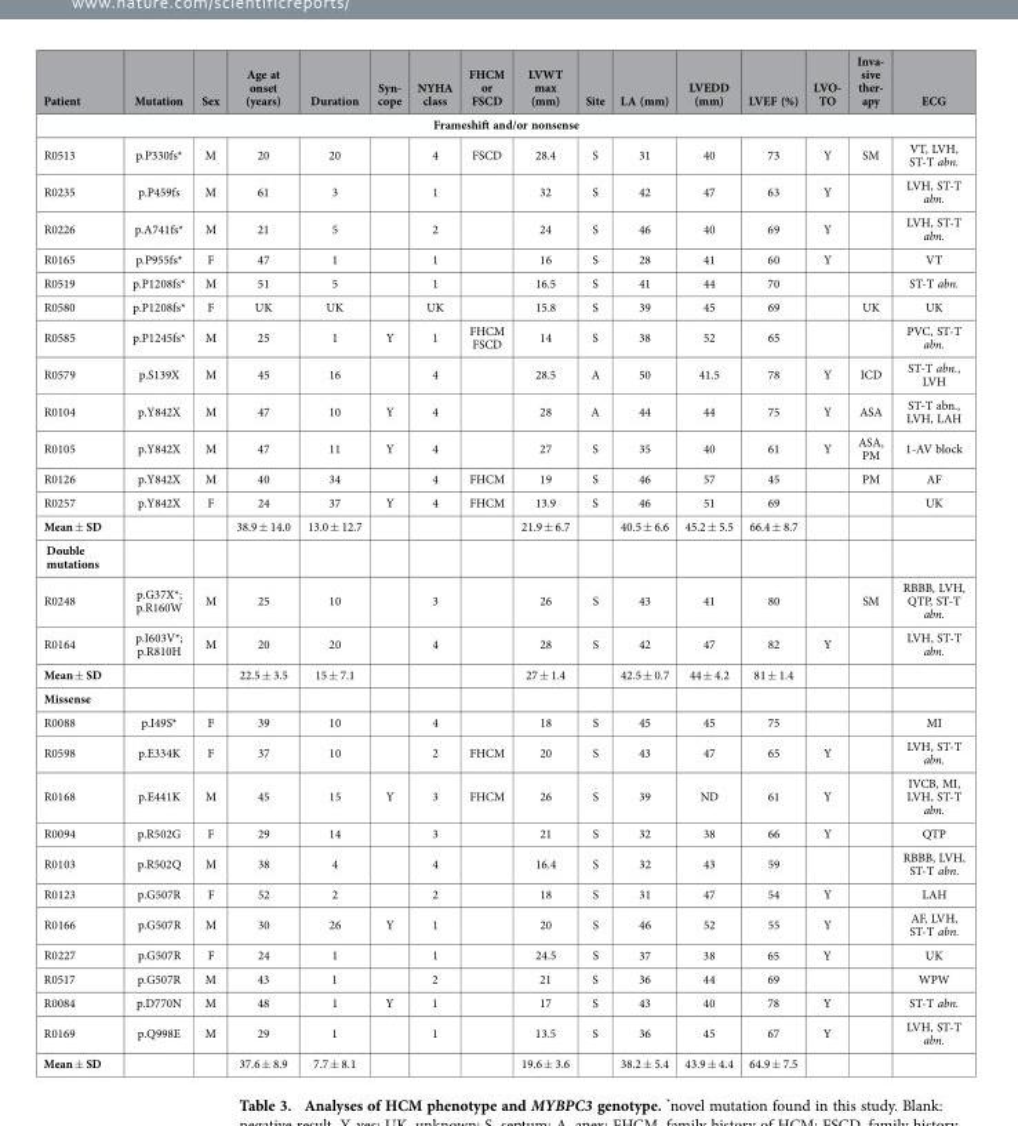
<table><thead><tr><td>Patient</td><td>Mutation</td><td>Sex</td><td>Age at onset (years)</td><td>Duration</td><td>Syn- cope</td><td>NYHA class</td><td>FHCM or FSCD</td><td>LVWT max (mm)</td><td>Site</td><td>LA (mm)</td><td>LVEDD (mm)</td><td>LVEF (%)</td><td>LVO- TO</td><td>Inva- sive ther- apy</td><td>ECG</td></tr></thead><tbody><tr><td colspan="16">Frameshift and/or nonsense</td></tr><tr><td>R0513</td><td>p.P330fs*</td><td>M</td><td>20</td><td>20</td><td></td><td>4</td><td>FSCD</td><td>28.4</td><td>S</td><td>31</td><td>40</td><td>73</td><td>Y</td><td>SM</td><td>VT, LVH, ST-T abn.</td></tr><tr><td>R0235</td><td>p.P459fs</td><td>M</td><td>61</td><td>3</td><td></td><td>1</td><td></td><td>32</td><td>S</td><td>42</td><td>47</td><td>63</td><td>Y</td><td></td><td>LVH, ST-T abn.</td></tr><tr><td>R0226</td><td>p.A741fs*</td><td>M</td><td>21</td><td>5</td><td></td><td>2</td><td></td><td>24</td><td>S</td><td>46</td><td>40</td><td>69</td><td>Y</td><td></td><td>LVH, ST-T abn.</td></tr><tr><td>R0165</td><td>p.P955fs*</td><td>F</td><td>47</td><td>1</td><td></td><td>1</td><td></td><td>16</td><td>S</td><td>28</td><td>41</td><td>60</td><td>Y</td><td></td><td>VT</td></tr><tr><td>R0519</td><td>p.P1208fs*</td><td>M</td><td>51</td><td>5</td><td></td><td>1</td><td></td><td>16.5</td><td>S</td><td>41</td><td>44</td><td>70</td><td></td><td></td><td>ST-T abn.</td></tr><tr><td>R0580</td><td>p.P1208fs*</td><td>F</td><td>UK</td><td>UK</td><td></td><td>UK</td><td></td><td>15.8</td><td>S</td><td>39</td><td>45</td><td>69</td><td></td><td>UK</td><td>UK</td></tr><tr><td>R0585</td><td>p.P1245fs*</td><td>M</td><td>25</td><td>1</td><td>Y</td><td>1</td><td>FHCM FSCD</td><td>14</td><td>S</td><td>38</td><td>52</td><td>65</td><td></td><td></td><td>PVC, ST-T abn.</td></tr><tr><td>R0579</td><td>p.S139X</td><td>M</td><td>45</td><td>16</td><td></td><td>4</td><td></td><td>28.5</td><td>A</td><td>50</td><td>41.5</td><td>78</td><td>Y</td><td>ICD</td><td>ST-T abn., LVH</td></tr><tr><td>R0104</td><td>p.Y842X</td><td>M</td><td>47</td><td>10</td><td>Y</td><td>4</td><td></td><td>28</td><td>A</td><td>44</td><td>44</td><td>75</td><td>Y</td><td>ASA</td><td>ST-T abn., LVH, LAH</td></tr><tr><td>R0105</td><td>p.Y842X</td><td>M</td><td>47</td><td>11</td><td>Y</td><td>4</td><td></td><td>27</td><td>S</td><td>35</td><td>40</td><td>61</td><td>Y</td><td>ASA, PM</td><td>1-AV block</td></tr><tr><td>R0126</td><td>p.Y842X</td><td>M</td><td>40</td><td>34</td><td></td><td>4</td><td>FHCM</td><td>19</td><td>S</td><td>46</td><td>57</td><td>45</td><td></td><td>PM</td><td>AF</td></tr><tr><td>R0257</td><td>p.Y842X</td><td>F</td><td>24</td><td>37</td><td>Y</td><td>4</td><td>FHCM</td><td>13.9</td><td>S</td><td>46</td><td>51</td><td>69</td><td></td><td></td><td>UK</td></tr><tr><td>Mean ± SD</td><td></td><td></td><td>38.9 ± 14.0</td><td>13.0 ± 12.7</td><td></td><td></td><td></td><td>21.9 ± 6.7</td><td></td><td>40.5 ± 6.6</td><td>45.2 ± 5.5</td><td>66.4 ± 8.7</td><td></td><td></td><td></td></tr><tr><td colspan="16">Double mutations</td></tr><tr><td>R0248</td><td>p.G37X*; p.R160W</td><td>M</td><td>25</td><td>10</td><td></td><td>3</td><td></td><td>26</td><td>S</td><td>43</td><td>41</td><td>80</td><td></td><td>SM</td><td>RBBB, LVH, QTP, ST-T abn.</td></tr><tr><td>R0164</td><td>p.I603V*; p.R810H</td><td>M</td><td>20</td><td>20</td><td></td><td>4</td><td></td><td>28</td><td>S</td><td>42</td><td>47</td><td>82</td><td>Y</td><td></td><td>LVH, ST-T abn.</td></tr><tr><td>Mean ± SD</td><td></td><td></td><td>22.5 ± 3.5</td><td>15 ± 7.1</td><td></td><td></td><td></td><td>27 ± 1.4</td><td></td><td>42.5 ± 0.7</td><td>44 ± 4.2</td><td>81 ± 1.4</td><td></td><td></td><td></td></tr><tr><td colspan="16">Missense</td></tr><tr><td>R0088</td><td>p.I49S*</td><td>F</td><td>39</td><td>10</td><td></td><td>4</td><td></td><td>18</td><td>S</td><td>45</td><td>45</td><td>75</td><td></td><td></td><td>MI</td></tr><tr><td>R0598</td><td>p.E334K</td><td>F</td><td>37</td><td>10</td><td></td><td>2</td><td>FHCM</td><td>20</td><td>S</td><td>43</td><td>47</td><td>65</td><td>Y</td><td></td><td>LVH, ST-T abn.</td></tr><tr><td>R0168</td><td>p.E441K</td><td>M</td><td>45</td><td>15</td><td>Y</td><td>3</td><td>FHCM</td><td>26</td><td>S</td><td>39</td><td>ND</td><td>61</td><td>Y</td><td></td><td>IVCB, MI, LVH, ST-T abn.</td></tr><tr><td>R0094</td><td>p.R502G</td><td>F</td><td>29</td><td>14</td><td></td><td>3</td><td></td><td>21</td><td>S</td><td>32</td><td>38</td><td>66</td><td>Y</td><td></td><td>QTP</td></tr><tr><td>R0103</td><td>p.R502Q</td><td>M</td><td>38</td><td>4</td><td></td><td>4</td><td></td><td>16.4</td><td>S</td><td>32</td><td>43</td><td>59</td><td></td><td></td><td>RBBB, LVH, ST-T abn.</td></tr><tr><td>R0123</td><td>p.G507R</td><td>F</td><td>52</td><td>2</td><td></td><td>2</td><td></td><td>18</td><td>S</td><td>31</td><td>47</td><td>54</td><td>Y</td><td></td><td>LAH</td></tr><tr><td>R0166</td><td>p.G507R</td><td>M</td><td>30</td><td>26</td><td>Y</td><td>1</td><td></td><td>20</td><td>S</td><td>46</td><td>52</td><td>55</td><td>Y</td><td></td><td>AF, LVH, ST-T abn.</td></tr><tr><td>R0227</td><td>p.G507R</td><td>F</td><td>24</td><td>1</td><td></td><td>1</td><td></td><td>24.5</td><td>S</td><td>37</td><td>38</td><td>65</td><td>Y</td><td></td><td>UK</td></tr><tr><td>R0517</td><td>p.G507R</td><td>M</td><td>43</td><td>1</td><td></td><td>2</td><td></td><td>21</td><td>S</td><td>36</td><td>44</td><td>69</td><td></td><td></td><td>WPW</td></tr><tr><td>R0084</td><td>p.D770N</td><td>M</td><td>48</td><td>1</td><td>Y</td><td>1</td><td></td><td>17</td><td>S</td><td>43</td><td>40</td><td>78</td><td>Y</td><td></td><td>ST-T abn.</td></tr><tr><td>R0169</td><td>p.Q998E</td><td>M</td><td>29</td><td>1</td><td></td><td>1</td><td></td><td>13.5</td><td>S</td><td>36</td><td>45</td><td>67</td><td>Y</td><td></td><td>LVH, ST-T abn.</td></tr><tr><td>Mean ± SD</td><td></td><td></td><td>37.6 ± 8.9</td><td>7.7 ± 8.1</td><td></td><td></td><td></td><td>19.6 ± 3.6</td><td></td><td>38.2 ± 5.4</td><td>43.9 ± 4.4</td><td>64.9 ± 7.5</td><td></td><td></td><td></td></tr></tbody></table>